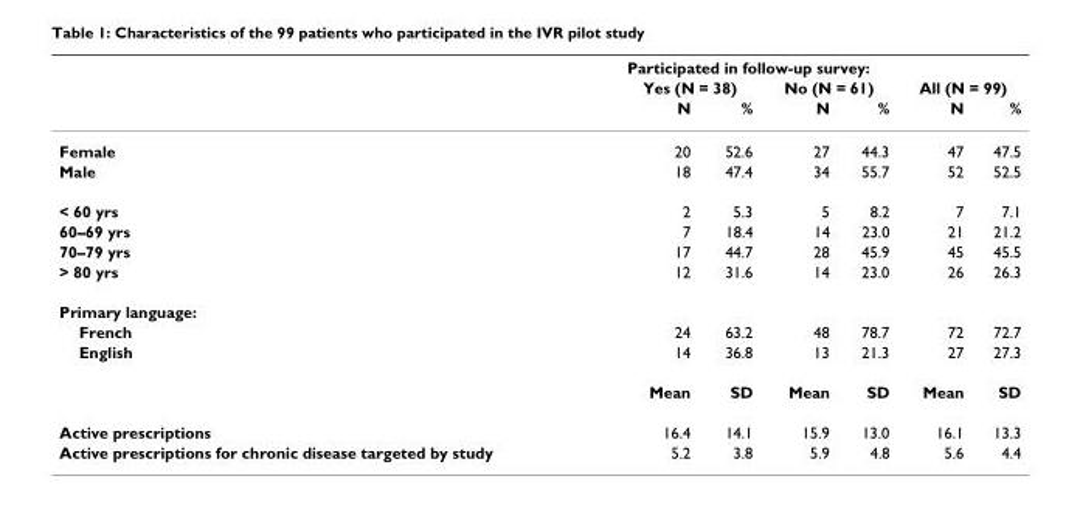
<table><thead><tr><td rowspan="3"></td><td colspan="6">Participated in follow-up survey:</td></tr><tr><td colspan="2">Yes (N = 38)</td><td colspan="2">No (N = 61)</td><td colspan="2">All (N = 99)</td></tr><tr><td>N</td><td>%</td><td>N</td><td>%</td><td>N</td><td>%</td></tr></thead><tbody><tr><td>Female</td><td>20</td><td>52.6</td><td>27</td><td>44.3</td><td>47</td><td>47.5</td></tr><tr><td>Male</td><td>18</td><td>47.4</td><td>34</td><td>55.7</td><td>52</td><td>52.5</td></tr><tr><td>&lt; 60 yrs</td><td>2</td><td>5.3</td><td>5</td><td>8.2</td><td>7</td><td>7.1</td></tr><tr><td>60–69 yrs</td><td>7</td><td>18.4</td><td>14</td><td>23.0</td><td>21</td><td>21.2</td></tr><tr><td>70–79 yrs</td><td>17</td><td>44.7</td><td>28</td><td>45.9</td><td>45</td><td>45.5</td></tr><tr><td>&gt; 80 yrs</td><td>12</td><td>31.6</td><td>14</td><td>23.0</td><td>26</td><td>26.3</td></tr><tr><td colspan="7">Primary language:</td></tr><tr><td>French</td><td>24</td><td>63.2</td><td>48</td><td>78.7</td><td>72</td><td>72.7</td></tr><tr><td rowspan="2">English</td><td>14</td><td>36.8</td><td>13</td><td>21.3</td><td>27</td><td>27.3</td></tr><tr><td>Mean</td><td>SD</td><td>Mean</td><td>SD</td><td>Mean</td><td>SD</td></tr><tr><td>Active prescriptions</td><td>16.4</td><td>14.1</td><td>15.9</td><td>13.0</td><td>16.1</td><td>13.3</td></tr><tr><td>Active prescriptions for chronic disease targeted by study</td><td>5.2</td><td>3.8</td><td>5.9</td><td>4.8</td><td>5.6</td><td>4.4</td></tr></tbody></table>